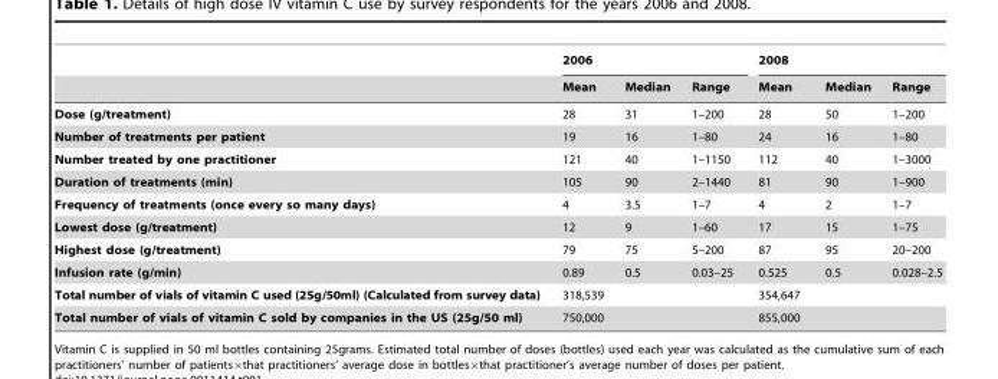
<table><thead><tr><td rowspan="2"></td><td colspan="3">2006</td><td colspan="3">2008</td></tr><tr><td>Mean</td><td>Median</td><td>Range</td><td>Mean</td><td>Median</td><td>Range</td></tr></thead><tbody><tr><td>Dose (g/treatment)</td><td>28</td><td>31</td><td>1–200</td><td>28</td><td>50</td><td>1–200</td></tr><tr><td>Number of treatments per patient</td><td>19</td><td>16</td><td>1–80</td><td>24</td><td>16</td><td>1–80</td></tr><tr><td>Number treated by one practitioner</td><td>121</td><td>40</td><td>1–1150</td><td>112</td><td>40</td><td>1–3000</td></tr><tr><td>Duration of treatments (min)</td><td>105</td><td>90</td><td>2–1440</td><td>81</td><td>90</td><td>1–900</td></tr><tr><td>Frequency of treatments (once every so many days)</td><td>4</td><td>3.5</td><td>1–7</td><td>4</td><td>2</td><td>1–7</td></tr><tr><td>Lowest dose (g/treatment)</td><td>12</td><td>9</td><td>1–60</td><td>17</td><td>15</td><td>1–75</td></tr><tr><td>Highest dose (g/treatment)</td><td>79</td><td>75</td><td>5–200</td><td>87</td><td>95</td><td>20–200</td></tr><tr><td>Infusion rate (g/min)</td><td>0.89</td><td>0.5</td><td>0.03–25</td><td>0.525</td><td>0.5</td><td>0.028–2.5</td></tr><tr><td>Total number of vials of vitamin C used (25g/50ml) (Calculated from survey data)</td><td colspan="3">318,539</td><td colspan="3">354,647</td></tr><tr><td>Total number of vials of vitamin C sold by companies in the US (25g/50 ml)</td><td colspan="3">750,000</td><td colspan="3">855,000</td></tr></tbody></table>